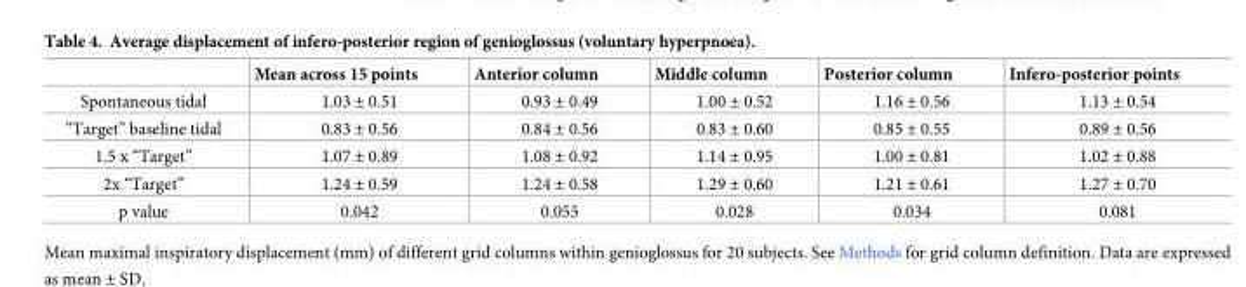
<table><thead><tr><td></td><td>Mean across 15 points</td><td>Anterior column</td><td>Middle column</td><td>Posterior column</td><td>Infero-posterior points</td></tr></thead><tbody><tr><td>Spontaneous tidal</td><td>1.03 ± 0.51</td><td>0.93 ± 0.49</td><td>1.00 ± 0.52</td><td>1.16 ± 0.56</td><td>1.13 ± 0.54</td></tr><tr><td>“Target” baseline tidal</td><td>0.83 ± 0.56</td><td>0.84 ± 0.56</td><td>0.83 ± 0.60</td><td>0.85 ± 0.55</td><td>0.89 ± 0.56</td></tr><tr><td>1.5 x “Target”</td><td>1.07 ± 0.89</td><td>1.08 ± 0.92</td><td>1.14 ± 0.95</td><td>1.00 ± 0.81</td><td>1.02 ± 0.88</td></tr><tr><td>2x “Target”</td><td>1.24 ± 0.59</td><td>1.24 ± 0.58</td><td>1.29 ± 0.60</td><td>1.21 ± 0.61</td><td>1.27 ± 0.70</td></tr><tr><td>p value</td><td>0.042</td><td>0.055</td><td>0.028</td><td>0.034</td><td>0.081</td></tr></tbody></table>